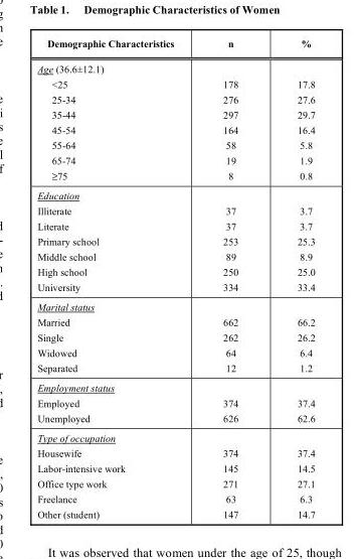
<table><thead><tr><td>Demographic Characteristics</td><td>n</td><td>%</td></tr></thead><tbody><tr><td>Age (36.6±12.1) &lt;25 25-34 35-44 45-54 55-64 65-74 ≥75</td><td>178 276 297 164 58 19 8</td><td>17.8 27.6 29.7 16.4 5.8 1.9 0.8</td></tr><tr><td>Education Illiterate Literate Primary school Middle school High school University</td><td>37 37 253 89 250 334</td><td>3.7 3.7 25.3 8.9 25.0 33.4</td></tr><tr><td>Marital status Married Single Widowed Separated</td><td>662 262 64 12</td><td>66.2 26.2 6.4 1.2</td></tr><tr><td>Employment status Employed Unemployed</td><td>374 626</td><td>37.4 62.6</td></tr><tr><td>Type of occupation Housewife Labor-intensive work Office type work Freelance Other (student)</td><td>374 145 271 63 147</td><td>37.4 14.5 27.1 6.3 14.7</td></tr></tbody></table>